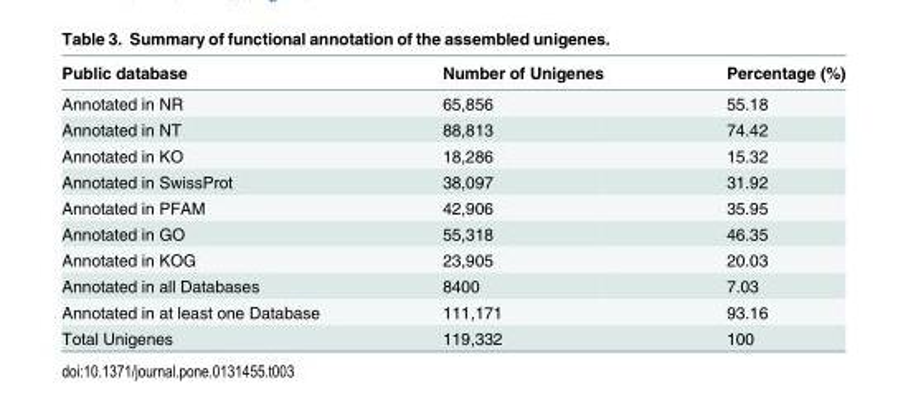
<table><thead><tr><td>Public database</td><td>Number of Unigenes</td><td>Percentage (%)</td></tr></thead><tbody><tr><td>Annotated in NR</td><td>65,856</td><td>55.18</td></tr><tr><td>Annotated in NT</td><td>88,813</td><td>74.42</td></tr><tr><td>Annotated in KO</td><td>18,286</td><td>15.32</td></tr><tr><td>Annotated in SwissProt</td><td>38,097</td><td>31.92</td></tr><tr><td>Annotated in PFAM</td><td>42,906</td><td>35.95</td></tr><tr><td>Annotated in GO</td><td>55,318</td><td>46.35</td></tr><tr><td>Annotated in KOG</td><td>23,905</td><td>20.03</td></tr><tr><td>Annotated in all Databases</td><td>8400</td><td>7.03</td></tr><tr><td>Annotated in at least one Database</td><td>111,171</td><td>93.16</td></tr><tr><td>Total Unigenes</td><td>119,332</td><td>100</td></tr></tbody></table>